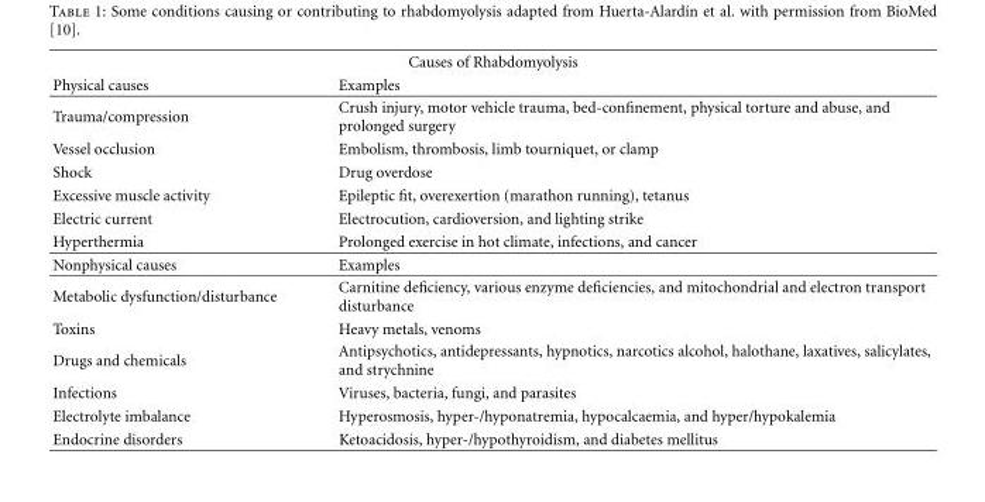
<table><thead><tr><td colspan="2">Causes of Rhabdomyolysis</td></tr><tr><td>Physical causes</td><td>Examples</td></tr></thead><tbody><tr><td>Trauma/compression</td><td>Crush injury, motor vehicle trauma, bed-confinement, physical torture and abuse, and prolonged surgery</td></tr><tr><td>Vessel occlusion</td><td>Embolism, thrombosis, limb tourniquet, or clamp</td></tr><tr><td>Shock</td><td>Drug overdose</td></tr><tr><td>Excessive muscle activity</td><td>Epileptic fit, overexertion (marathon running), tetanus</td></tr><tr><td>Electric current</td><td>Electrocution, cardioversion, and lighting strike</td></tr><tr><td>Hyperthermia</td><td>Prolonged exercise in hot climate, infections, and cancer</td></tr><tr><td>Nonphysical causes</td><td>Examples</td></tr><tr><td>Metabolic dysfunction/disturbance</td><td>Carnitine deficiency, various enzyme deficiencies, and mitochondrial and electron transport disturbance</td></tr><tr><td>Toxins</td><td>Heavy metals, venoms</td></tr><tr><td>Drugs and chemicals</td><td>Antipsychotics, antidepressants, hypnotics, narcotics alcohol, halothane, laxatives, salicylates, and strychnine</td></tr><tr><td>Infections</td><td>Viruses, bacteria, fungi, and parasites</td></tr><tr><td>Electrolyte imbalance</td><td>Hyperosmosis, hyper-/hyponatremia, hypocalcaemia, and hyper/hypokalemia</td></tr><tr><td>Endocrine disorders</td><td>Ketoacidosis, hyper-/hypothyroidism, and diabetes mellitus</td></tr></tbody></table>